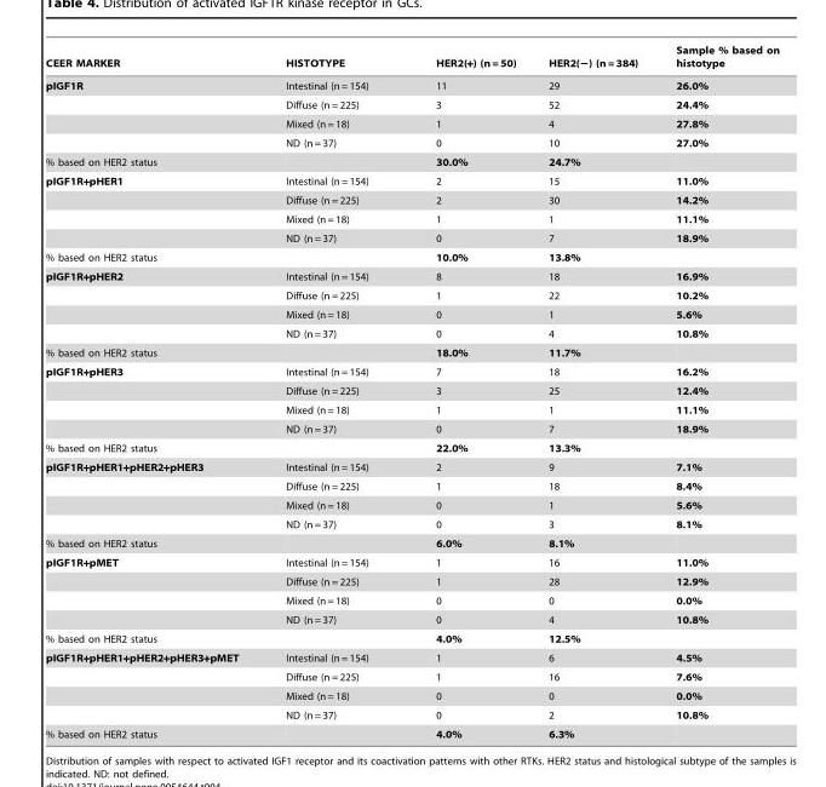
<table><thead><tr><td>CEER MARKER</td><td>HISTOTYPE</td><td>HER2(+) (n = 50)</td><td>HER2(−) (n = 384)</td><td>Sample % based on histotype</td></tr></thead><tbody><tr><td rowspan="4">pIGF1R</td><td>Intestinal (n = 154)</td><td>11</td><td>29</td><td>26.0%</td></tr><tr><td>Diffuse (n = 225)</td><td>3</td><td>52</td><td>24.4%</td></tr><tr><td>Mixed (n = 18)</td><td>1</td><td>4</td><td>27.8%</td></tr><tr><td>ND (n = 37)</td><td>0</td><td>10</td><td>27.0%</td></tr><tr><td>% based on HER2 status</td><td></td><td>30.0%</td><td>24.7%</td><td></td></tr><tr><td rowspan="4">pIGF1R+pHER1</td><td>Intestinal (n = 154)</td><td>2</td><td>15</td><td>11.0%</td></tr><tr><td>Diffuse (n = 225)</td><td>2</td><td>30</td><td>14.2%</td></tr><tr><td>Mixed (n = 18)</td><td>1</td><td>1</td><td>11.1%</td></tr><tr><td>ND (n = 37)</td><td>0</td><td>7</td><td>18.9%</td></tr><tr><td>% based on HER2 status</td><td></td><td>10.0%</td><td>13.8%</td><td></td></tr><tr><td rowspan="4">pIGF1R+pHER2</td><td>Intestinal (n = 154)</td><td>8</td><td>18</td><td>16.9%</td></tr><tr><td>Diffuse (n = 225)</td><td>1</td><td>22</td><td>10.2%</td></tr><tr><td>Mixed (n = 18)</td><td>0</td><td>1</td><td>5.6%</td></tr><tr><td>ND (n = 37)</td><td>0</td><td>4</td><td>10.8%</td></tr><tr><td>% based on HER2 status</td><td></td><td>18.0%</td><td>11.7%</td><td></td></tr><tr><td rowspan="4">pIGF1R+pHER3</td><td>Intestinal (n = 154)</td><td>7</td><td>18</td><td>16.2%</td></tr><tr><td>Diffuse (n = 225)</td><td>3</td><td>25</td><td>12.4%</td></tr><tr><td>Mixed (n = 18)</td><td>1</td><td>1</td><td>11.1%</td></tr><tr><td>ND (n = 37)</td><td>0</td><td>7</td><td>18.9%</td></tr><tr><td>% based on HER2 status</td><td></td><td>22.0%</td><td>13.3%</td><td></td></tr><tr><td rowspan="4">pIGF1R+pHER1+pHER2+pHER3</td><td>Intestinal (n = 154)</td><td>2</td><td>9</td><td>7.1%</td></tr><tr><td>Diffuse (n = 225)</td><td>1</td><td>18</td><td>8.4%</td></tr><tr><td>Mixed (n = 18)</td><td>0</td><td>1</td><td>5.6%</td></tr><tr><td>ND (n = 37)</td><td>0</td><td>3</td><td>8.1%</td></tr><tr><td>% based on HER2 status</td><td></td><td>6.0%</td><td>8.1%</td><td></td></tr><tr><td rowspan="4">pIGF1R+pMET</td><td>Intestinal (n = 154)</td><td>1</td><td>16</td><td>11.0%</td></tr><tr><td>Diffuse (n = 225)</td><td>1</td><td>28</td><td>12.9%</td></tr><tr><td>Mixed (n = 18)</td><td>0</td><td>0</td><td>0.0%</td></tr><tr><td>ND (n = 37)</td><td>0</td><td>4</td><td>10.8%</td></tr><tr><td>% based on HER2 status</td><td></td><td>4.0%</td><td>12.5%</td><td></td></tr><tr><td rowspan="4">pIGF1R+pHER1+pHER2+pHER3+pMET</td><td>Intestinal (n = 154)</td><td>1</td><td>6</td><td>4.5%</td></tr><tr><td>Diffuse (n = 225)</td><td>1</td><td>16</td><td>7.6%</td></tr><tr><td>Mixed (n = 18)</td><td>0</td><td>0</td><td>0.0%</td></tr><tr><td>ND (n = 37)</td><td>0</td><td>2</td><td>10.8%</td></tr><tr><td>% based on HER2 status</td><td></td><td>4.0%</td><td>6.3%</td><td></td></tr></tbody></table>